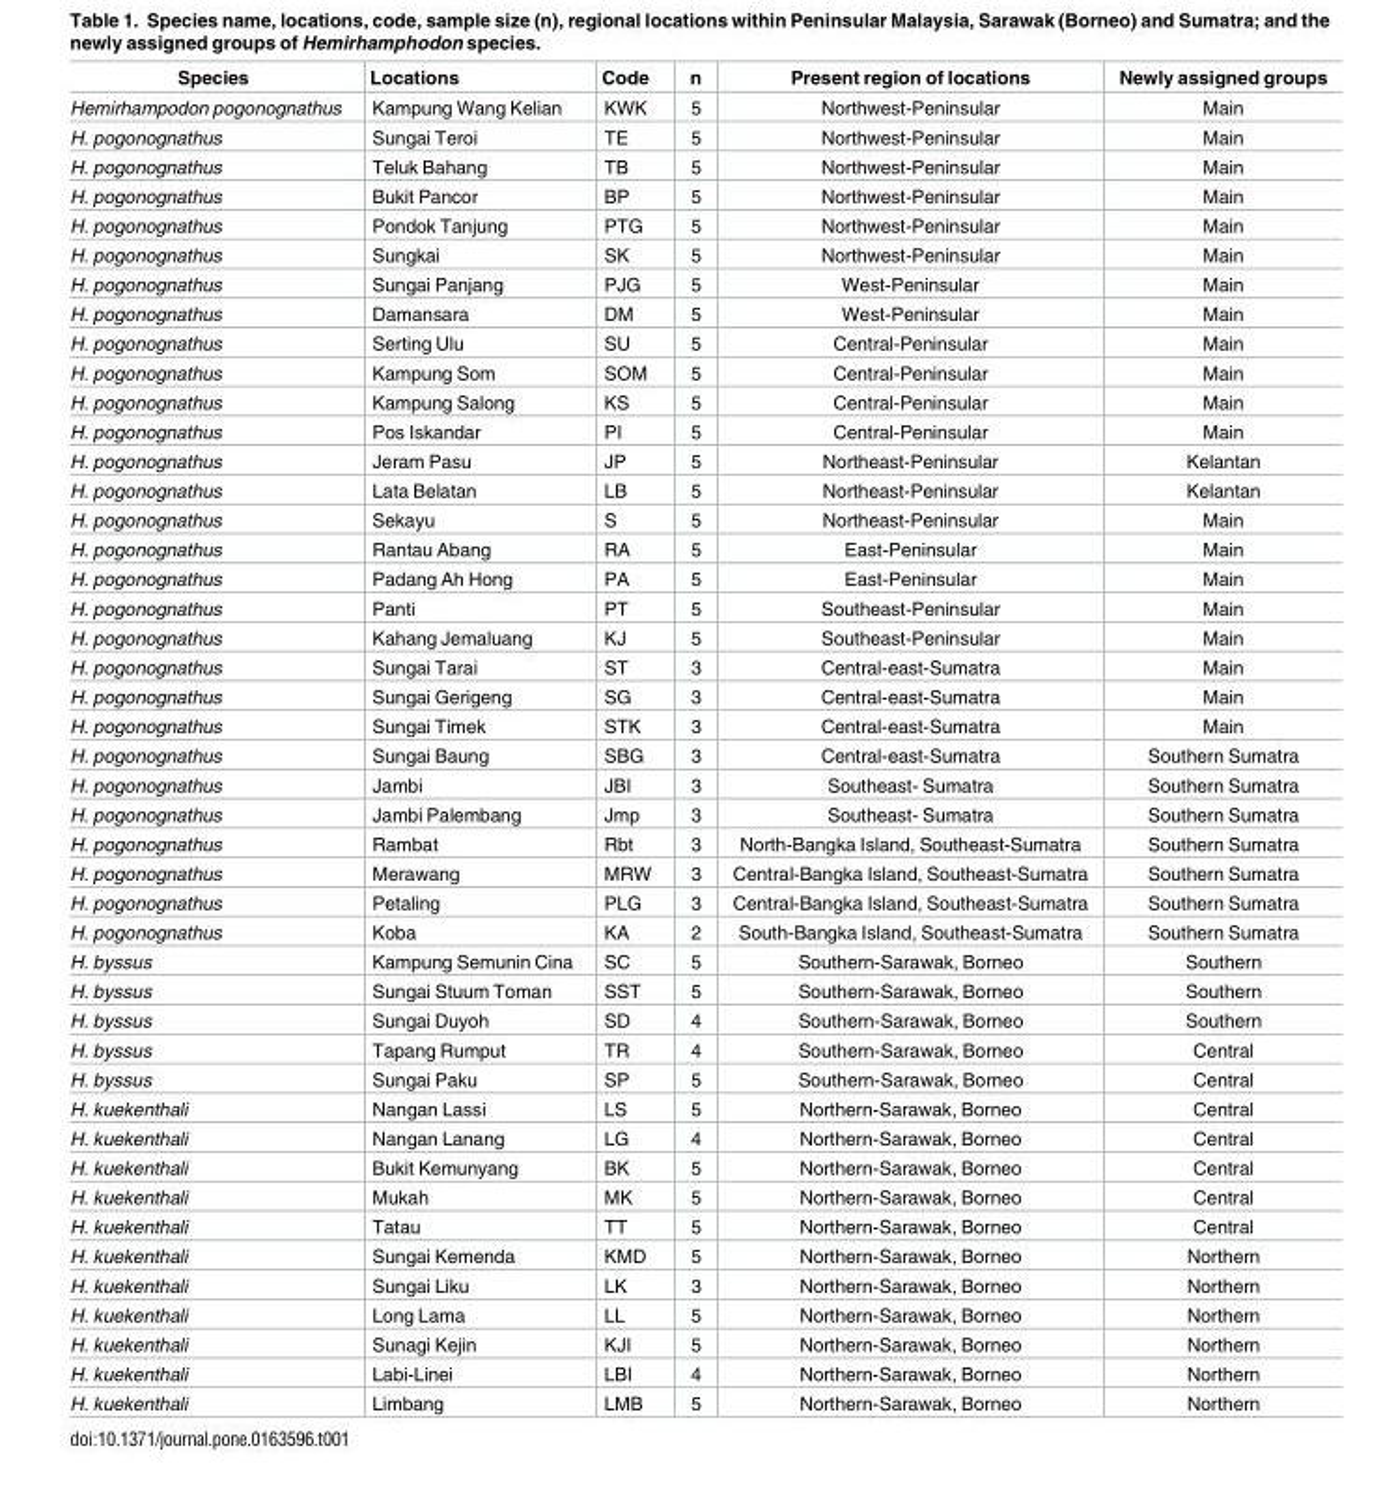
<table><thead><tr><td>Species</td><td>Locations</td><td>Code</td><td>n</td><td>Present region of locations</td><td>Newly assigned groups</td></tr></thead><tbody><tr><td>Hemirhampodon pogonognathus</td><td>Kampung Wang Kelian</td><td>KWK</td><td>5</td><td>Northwest-Peninsular</td><td>Main</td></tr><tr><td>H. pogonognathus</td><td>Sungai Teroi</td><td>TE</td><td>5</td><td>Northwest-Peninsular</td><td>Main</td></tr><tr><td>H. pogonognathus</td><td>Teluk Bahang</td><td>TB</td><td>5</td><td>Northwest-Peninsular</td><td>Main</td></tr><tr><td>H. pogonognathus</td><td>Bukit Pancor</td><td>BP</td><td>5</td><td>Northwest-Peninsular</td><td>Main</td></tr><tr><td>H. pogonognathus</td><td>Pondok Tanjung</td><td>PTG</td><td>5</td><td>Northwest-Peninsular</td><td>Main</td></tr><tr><td>H. pogonognathus</td><td>Sungkai</td><td>SK</td><td>5</td><td>Northwest-Peninsular</td><td>Main</td></tr><tr><td>H. pogonognathus</td><td>Sungai Panjang</td><td>PJG</td><td>5</td><td>West-Peninsular</td><td>Main</td></tr><tr><td>H. pogonognathus</td><td>Damansara</td><td>DM</td><td>5</td><td>West-Peninsular</td><td>Main</td></tr><tr><td>H. pogonognathus</td><td>Serting Ulu</td><td>SU</td><td>5</td><td>Central-Peninsular</td><td>Main</td></tr><tr><td>H. pogonognathus</td><td>Kampung Som</td><td>SOM</td><td>5</td><td>Central-Peninsular</td><td>Main</td></tr><tr><td>H. pogonognathus</td><td>Kampung Salong</td><td>KS</td><td>5</td><td>Central-Peninsular</td><td>Main</td></tr><tr><td>H. pogonognathus</td><td>Pos Iskandar</td><td>PI</td><td>5</td><td>Central-Peninsular</td><td>Main</td></tr><tr><td>H. pogonognathus</td><td>Jeram Pasu</td><td>JP</td><td>5</td><td>Northeast-Peninsular</td><td>Kelantan</td></tr><tr><td>H. pogonognathus</td><td>Lata Belatan</td><td>LB</td><td>5</td><td>Northeast-Peninsular</td><td>Kelantan</td></tr><tr><td>H. pogonognathus</td><td>Sekayu</td><td>S</td><td>5</td><td>Northeast-Peninsular</td><td>Main</td></tr><tr><td>H. pogonognathus</td><td>Rantau Abang</td><td>RA</td><td>5</td><td>East-Peninsular</td><td>Main</td></tr><tr><td>H. pogonognathus</td><td>Padang Ah Hong</td><td>PA</td><td>5</td><td>East-Peninsular</td><td>Main</td></tr><tr><td>H. pogonognathus</td><td>Panti</td><td>PT</td><td>5</td><td>Southeast-Peninsular</td><td>Main</td></tr><tr><td>H. pogonognathus</td><td>Kahang Jemaluang</td><td>KJ</td><td>5</td><td>Southeast-Peninsular</td><td>Main</td></tr><tr><td>H. pogonognathus</td><td>Sungai Tarai</td><td>ST</td><td>3</td><td>Central-east-Sumatra</td><td>Main</td></tr><tr><td>H. pogonognathus</td><td>Sungai Gerigeng</td><td>SG</td><td>3</td><td>Central-east-Sumatra</td><td>Main</td></tr><tr><td>H. pogonognathus</td><td>Sungai Timek</td><td>STK</td><td>3</td><td>Central-east-Sumatra</td><td>Main</td></tr><tr><td>H. pogonognathus</td><td>Sungai Baung</td><td>SBG</td><td>3</td><td>Central-east-Sumatra</td><td>Southern Sumatra</td></tr><tr><td>H. pogonognathus</td><td>Jambi</td><td>JBI</td><td>3</td><td>Southeast- Sumatra</td><td>Southern Sumatra</td></tr><tr><td>H. pogonognathus</td><td>Jambi Palembang</td><td>Jmp</td><td>3</td><td>Southeast- Sumatra</td><td>Southern Sumatra</td></tr><tr><td>H. pogonognathus</td><td>Rambat</td><td>Rbt</td><td>3</td><td>North-Bangka Island, Southeast-Sumatra</td><td>Southern Sumatra</td></tr><tr><td>H. pogonognathus</td><td>Merawang</td><td>MRW</td><td>3</td><td>Central-Bangka Island, Southeast-Sumatra</td><td>Southern Sumatra</td></tr><tr><td>H. pogonognathus</td><td>Petaling</td><td>PLG</td><td>3</td><td>Central-Bangka Island, Southeast-Sumatra</td><td>Southern Sumatra</td></tr><tr><td>H. pogonognathus</td><td>Koba</td><td>KA</td><td>2</td><td>South-Bangka Island, Southeast-Sumatra</td><td>Southern Sumatra</td></tr><tr><td>H. byssus</td><td>Kampung Semunin Cina</td><td>SC</td><td>5</td><td>Southern-Sarawak, Borneo</td><td>Southern</td></tr><tr><td>H. byssus</td><td>Sungai Stuum Toman</td><td>SST</td><td>5</td><td>Southern-Sarawak, Borneo</td><td>Southern</td></tr><tr><td>H. byssus</td><td>Sungai Duyoh</td><td>SD</td><td>4</td><td>Southern-Sarawak, Borneo</td><td>Southern</td></tr><tr><td>H. byssus</td><td>Tapang Rumput</td><td>TR</td><td>4</td><td>Southern-Sarawak, Borneo</td><td>Central</td></tr><tr><td>H. byssus</td><td>Sungai Paku</td><td>SP</td><td>5</td><td>Southern-Sarawak, Borneo</td><td>Central</td></tr><tr><td>H. kuekenthali</td><td>Nangan Lassi</td><td>LS</td><td>5</td><td>Northern-Sarawak, Borneo</td><td>Central</td></tr><tr><td>H. kuekenthali</td><td>Nangan Lanang</td><td>LG</td><td>4</td><td>Northern-Sarawak, Borneo</td><td>Central</td></tr><tr><td>H. kuekenthali</td><td>Bukit Kemunyang</td><td>BK</td><td>5</td><td>Northern-Sarawak, Borneo</td><td>Central</td></tr><tr><td>H. kuekenthali</td><td>Mukah</td><td>MK</td><td>5</td><td>Northern-Sarawak, Borneo</td><td>Central</td></tr><tr><td>H. kuekenthali</td><td>Tatau</td><td>TT</td><td>5</td><td>Northern-Sarawak, Borneo</td><td>Central</td></tr><tr><td>H. kuekenthali</td><td>Sungai Kemenda</td><td>KMD</td><td>5</td><td>Northern-Sarawak, Borneo</td><td>Northern</td></tr><tr><td>H. kuekenthali</td><td>Sungai Liku</td><td>LK</td><td>3</td><td>Northern-Sarawak, Borneo</td><td>Northern</td></tr><tr><td>H. kuekenthali</td><td>Long Lama</td><td>LL</td><td>5</td><td>Northern-Sarawak, Borneo</td><td>Northern</td></tr><tr><td>H. kuekenthali</td><td>Sunagi Kejin</td><td>KJI</td><td>5</td><td>Northern-Sarawak, Borneo</td><td>Northern</td></tr><tr><td>H. kuekenthali</td><td>Labi-Linei</td><td>LBI</td><td>4</td><td>Northern-Sarawak, Borneo</td><td>Northern</td></tr><tr><td>H. kuekenthali</td><td>Limbang</td><td>LMB</td><td>5</td><td>Northern-Sarawak, Borneo</td><td>Northern</td></tr></tbody></table>